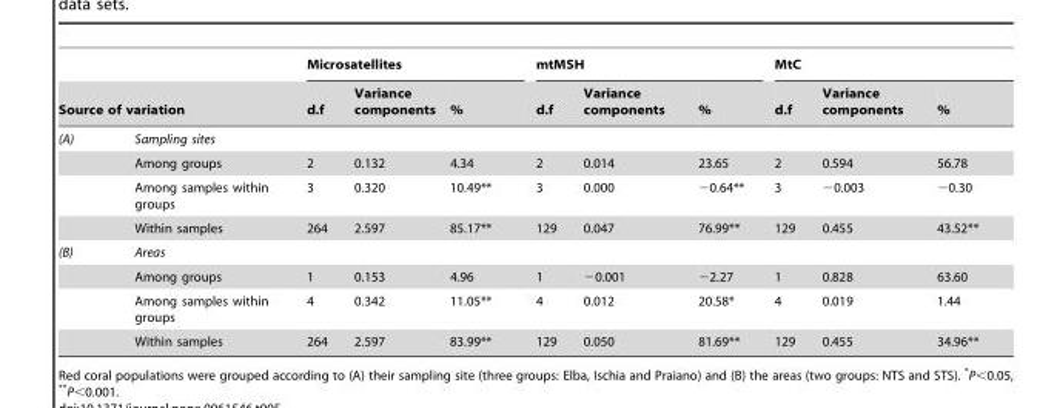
<table><thead><tr><td></td><td></td><td colspan="3">Microsatellites</td><td colspan="3">mtMSH</td><td colspan="3">MtC</td></tr><tr><td colspan="2">Source of variation</td><td>d.f</td><td>Variance components</td><td>%</td><td>d.f</td><td>Variance components</td><td>%</td><td>d.f</td><td>Variance components</td><td>%</td></tr></thead><tbody><tr><td rowspan="4">(A)</td><td>Sampling sites</td><td></td><td></td><td></td><td></td><td></td><td></td><td></td><td></td><td></td></tr><tr><td>Among groups</td><td>2</td><td>0.132</td><td>4.34</td><td>2</td><td>0.014</td><td>23.65</td><td>2</td><td>0.594</td><td>56.78</td></tr><tr><td>Among samples within groups</td><td>3</td><td>0.320</td><td>10.49**</td><td>3</td><td>0.000</td><td>−0.64**</td><td>3</td><td>−0.003</td><td>−0.30</td></tr><tr><td>Within samples</td><td>264</td><td>2.597</td><td>85.17**</td><td>129</td><td>0.047</td><td>76.99**</td><td>129</td><td>0.455</td><td>43.52**</td></tr><tr><td rowspan="4">(B)</td><td>Areas</td><td></td><td></td><td></td><td></td><td></td><td></td><td></td><td></td><td></td></tr><tr><td>Among groups</td><td>1</td><td>0.153</td><td>4.96</td><td>1</td><td>−0.001</td><td>−2.27</td><td>1</td><td>0.828</td><td>63.60</td></tr><tr><td>Among samples within groups</td><td>4</td><td>0.342</td><td>11.05**</td><td>4</td><td>0.012</td><td>20.58*</td><td>4</td><td>0.019</td><td>1.44</td></tr><tr><td>Within samples</td><td>264</td><td>2.597</td><td>83.99**</td><td>129</td><td>0.050</td><td>81.69**</td><td>129</td><td>0.455</td><td>34.96**</td></tr></tbody></table>